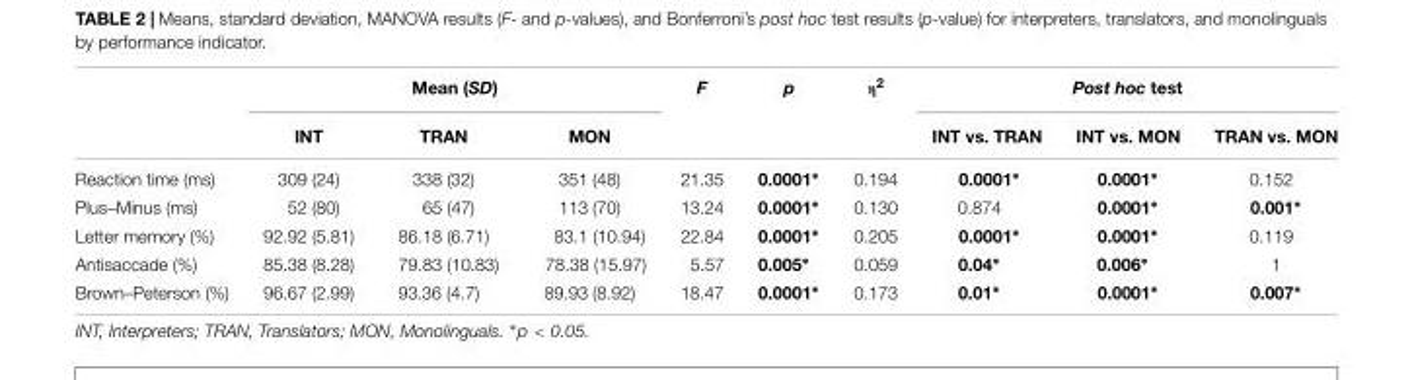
<table><thead><tr><td rowspan="2"></td><td colspan="3">Mean (SD)</td><td rowspan="2">F</td><td rowspan="2">p</td><td rowspan="2">η<sup>2</sup></td><td colspan="3">Post hoc test</td></tr><tr><td>INT</td><td>TRAN</td><td>MON</td><td>INT vs. TRAN</td><td>INT vs. MON</td><td>TRAN vs. MON</td></tr></thead><tbody><tr><td>Reaction time (ms)</td><td>309 (24)</td><td>338 (32)</td><td>351 (48)</td><td>21.35</td><td>0.0001∗</td><td>0.194</td><td>0.0001∗</td><td>0.0001∗</td><td>0.152</td></tr><tr><td>Plus–Minus (ms)</td><td>52 (80)</td><td>65 (47)</td><td>113 (70)</td><td>13.24</td><td>0.0001∗</td><td>0.130</td><td>0.874</td><td>0.0001∗</td><td>0.001∗</td></tr><tr><td>Letter memory (%)</td><td>92.92 (5.81)</td><td>86.18 (6.71)</td><td>83.1 (10.94)</td><td>22.84</td><td>0.0001∗</td><td>0.205</td><td>0.0001∗</td><td>0.0001∗</td><td>0.119</td></tr><tr><td>Antisaccade (%)</td><td>85.38 (8.28)</td><td>79.83 (10.83)</td><td>78.38 (15.97)</td><td>5.57</td><td>0.005∗</td><td>0.059</td><td>0.04∗</td><td>0.006∗</td><td>1</td></tr><tr><td>Brown–Peterson (%)</td><td>96.67 (2.99)</td><td>93.36 (4.7)</td><td>89.93 (8.92)</td><td>18.47</td><td>0.0001∗</td><td>0.173</td><td>0.01∗</td><td>0.0001∗</td><td>0.007∗</td></tr></tbody></table>